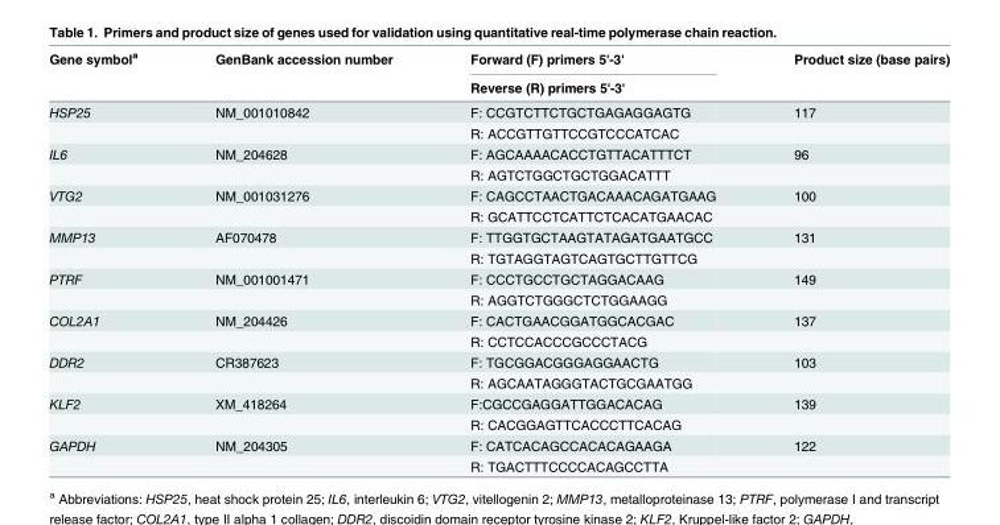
<table><thead><tr><td rowspan="2">Gene symbol<sup>a</sup></td><td rowspan="2">GenBank accession number</td><td rowspan="2">Forward (F) primers 5&#x27;-3&#x27; Reverse (R) primers 5&#x27;-3&#x27;</td><td rowspan="2">Product size (base pairs)</td></tr><tr></tr></thead><tbody><tr><td rowspan="2">HSP25</td><td>NM_001010842</td><td>F: CCGTCTTCTGCTGAGAGGAGTG</td><td>117</td></tr><tr><td></td><td>R: ACCGTTGTTCCGTCCCATCAC</td><td></td></tr><tr><td rowspan="2">IL6</td><td>NM_204628</td><td>F: AGCAAAACACCTGTTACATTTCT</td><td>96</td></tr><tr><td></td><td>R: AGTCTGGCTGCTGGACATTT</td><td></td></tr><tr><td rowspan="2">VTG2</td><td>NM_001031276</td><td>F: CAGCCTAACTGACAAACAGATGAAG</td><td>100</td></tr><tr><td></td><td>R: GCATTCCTCATTCTCACATGAACAC</td><td></td></tr><tr><td rowspan="2">MMP13</td><td>AF070478</td><td>F: TTGGTGCTAAGTATAGATGAATGCC</td><td>131</td></tr><tr><td></td><td>R: TGTAGGTAGTCAGTGCTTGTTCG</td><td></td></tr><tr><td rowspan="2">PTRF</td><td>NM_001001471</td><td>F: CCCTGCCTGCTAGGACAAG</td><td>149</td></tr><tr><td></td><td>R: AGGTCTGGGCTCTGGAAGG</td><td></td></tr><tr><td rowspan="2">COL2A1</td><td>NM_204426</td><td>F: CACTGAACGGATGGCACGAC</td><td>137</td></tr><tr><td></td><td>R: CCTCCACCCGCCCTACG</td><td></td></tr><tr><td rowspan="2">DDR2</td><td>CR387623</td><td>F: TGCGGACGGGAGGAACTG</td><td>103</td></tr><tr><td></td><td>R: AGCAATAGGGTACTGCGAATGG</td><td></td></tr><tr><td rowspan="2">KLF2</td><td>XM_418264</td><td>F:CGCCGAGGATTGGACACAG</td><td>139</td></tr><tr><td></td><td>R: CACGGAGTTCACCCTTCACAG</td><td></td></tr><tr><td rowspan="2">GAPDH</td><td>NM_204305</td><td>F: CATCACAGCCACACAGAAGA</td><td>122</td></tr><tr><td></td><td>R: TGACTTTCCCCACAGCCTTA</td><td></td></tr></tbody></table>